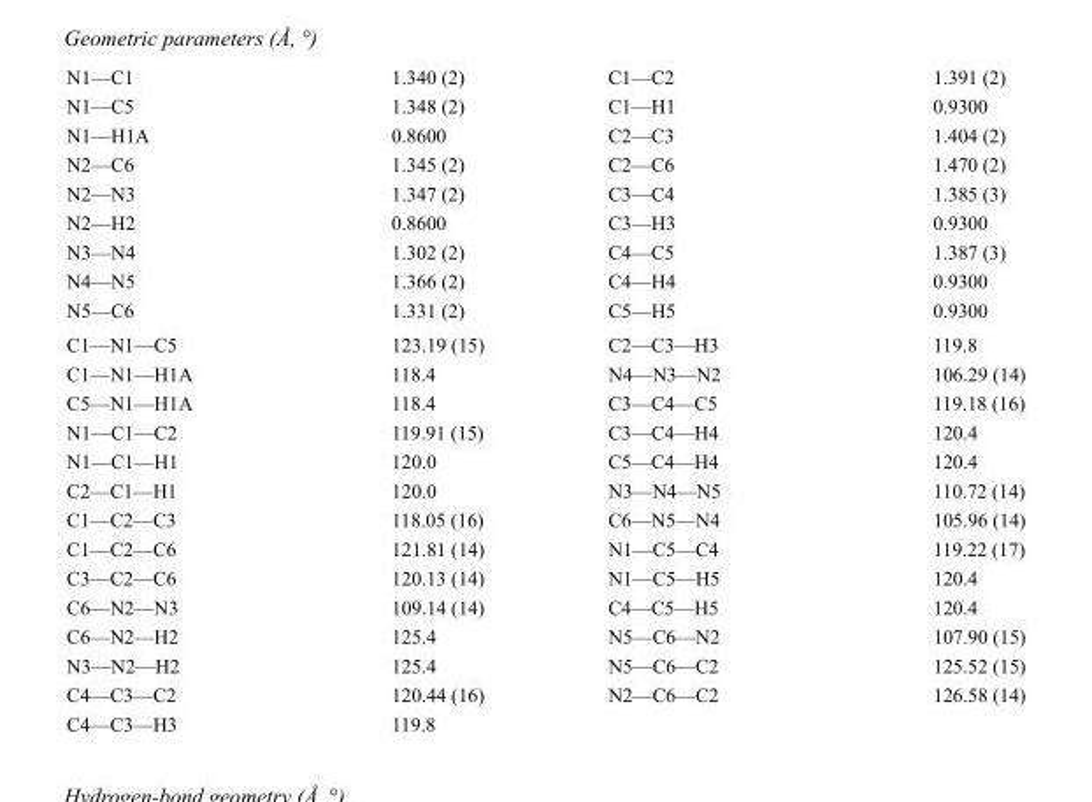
<table><tbody><tr><td>N1—C1</td><td>1.340 (2)</td><td>C1—C2</td><td>1.391 (2)</td></tr><tr><td>N1—C5</td><td>1.348 (2)</td><td>C1—H1</td><td>0.9300</td></tr><tr><td>N1—H1A</td><td>0.8600</td><td>C2—C3</td><td>1.404 (2)</td></tr><tr><td>N2—C6</td><td>1.345 (2)</td><td>C2—C6</td><td>1.470 (2)</td></tr><tr><td>N2—N3</td><td>1.347 (2)</td><td>C3—C4</td><td>1.385 (3)</td></tr><tr><td>N2—H2</td><td>0.8600</td><td>C3—H3</td><td>0.9300</td></tr><tr><td>N3—N4</td><td>1.302 (2)</td><td>C4—C5</td><td>1.387 (3)</td></tr><tr><td>N4—N5</td><td>1.366 (2)</td><td>C4—H4</td><td>0.9300</td></tr><tr><td>N5—C6</td><td>1.331 (2)</td><td>C5—H5</td><td>0.9300</td></tr><tr><td>C1—N1—C5</td><td>123.19 (15)</td><td>C2—C3—H3</td><td>119.8</td></tr><tr><td>C1—N1—H1A</td><td>118.4</td><td>N4—N3—N2</td><td>106.29 (14)</td></tr><tr><td>C5—N1—H1A</td><td>118.4</td><td>C3—C4—C5</td><td>119.18 (16)</td></tr><tr><td>N1—C1—C2</td><td>119.91 (15)</td><td>C3—C4—H4</td><td>120.4</td></tr><tr><td>N1—C1—H1</td><td>120.0</td><td>C5—C4—H4</td><td>120.4</td></tr><tr><td>C2—C1—H1</td><td>120.0</td><td>N3—N4—N5</td><td>110.72 (14)</td></tr><tr><td>C1—C2—C3</td><td>118.05 (16)</td><td>C6—N5—N4</td><td>105.96 (14)</td></tr><tr><td>C1—C2—C6</td><td>121.81 (14)</td><td>N1—C5—C4</td><td>119.22 (17)</td></tr><tr><td>C3—C2—C6</td><td>120.13 (14)</td><td>N1—C5—H5</td><td>120.4</td></tr><tr><td>C6—N2—N3</td><td>109.14 (14)</td><td>C4—C5—H5</td><td>120.4</td></tr><tr><td>C6—N2—H2</td><td>125.4</td><td>N5—C6—N2</td><td>107.90 (15)</td></tr><tr><td>N3—N2—H2</td><td>125.4</td><td>N5—C6—C2</td><td>125.52 (15)</td></tr><tr><td>C4—C3—C2</td><td>120.44 (16)</td><td>N2—C6—C2</td><td>126.58 (14)</td></tr><tr><td>C4—C3—H3</td><td>119.8</td><td></td><td></td></tr></tbody></table>